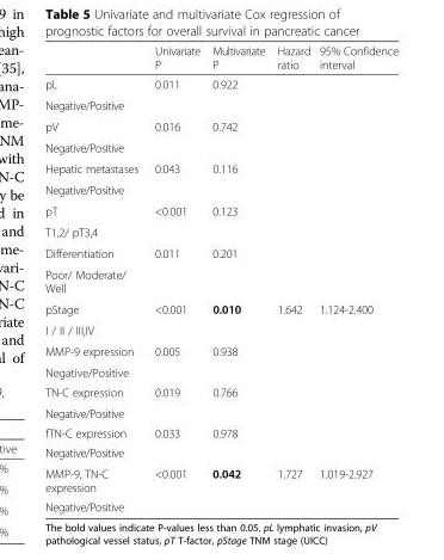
<table><thead><tr><td></td><td>Univariate P</td><td>Multivariate P</td><td>Hazard ratio</td><td>95% Confidence interval</td></tr></thead><tbody><tr><td>pL</td><td>0.011</td><td>0.922</td><td></td><td></td></tr><tr><td colspan="5">Negative/Positive</td></tr><tr><td>pV</td><td>0.016</td><td>0.742</td><td></td><td></td></tr><tr><td colspan="5">Negative/Positive</td></tr><tr><td>Hepatic metastases</td><td>0.043</td><td>0.116</td><td></td><td></td></tr><tr><td colspan="5">Negative/Positive</td></tr><tr><td>pT</td><td>&lt;0.001</td><td>0.123</td><td></td><td></td></tr><tr><td colspan="5">T1,2/ pT3,4</td></tr><tr><td>Differentiation</td><td>0.011</td><td>0.201</td><td></td><td></td></tr><tr><td colspan="5">Poor/ Moderate/ Well</td></tr><tr><td>pStage</td><td>&lt;0.001</td><td>0.010</td><td>1.642</td><td>1.124-2.400</td></tr><tr><td colspan="5">I / II / III,IV</td></tr><tr><td>MMP-9 expression</td><td>0.005</td><td>0.938</td><td></td><td></td></tr><tr><td colspan="5">Negative/Positive</td></tr><tr><td>TN-C expression</td><td>0.019</td><td>0.766</td><td></td><td></td></tr><tr><td colspan="5">Negative/Positive</td></tr><tr><td>fTN-C expression</td><td>0.033</td><td>0.978</td><td></td><td></td></tr><tr><td colspan="5">Negative/Positive</td></tr><tr><td>MMP-9, TN-C expression</td><td>&lt;0.001</td><td>0.042</td><td>1.727</td><td>1.019-2.927</td></tr><tr><td>Negative/Positive</td><td></td><td></td><td></td><td></td></tr></tbody></table>